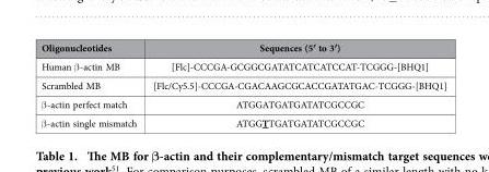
<table><thead><tr><td>Oligonucleotides</td><td>Sequences (5′ to 3′)</td></tr></thead><tbody><tr><td>Human β -actin MB</td><td>[Flc]-CCCGA-GCGGCGATATCATCATCCAT-TCGGG-[BHQ1]</td></tr><tr><td>Scrambled MB</td><td>[Flc/Cy5.5]-CCCGA-CGACAAGCGCACCGATATGAC-TCGGG-[BHQ1]</td></tr><tr><td>β -actin perfect match</td><td>ATGGATGATGATATCGCCGC</td></tr><tr><td>β -actin single mismatch</td><td>ATGGTTGATGATATCGCCGC</td></tr></tbody></table>